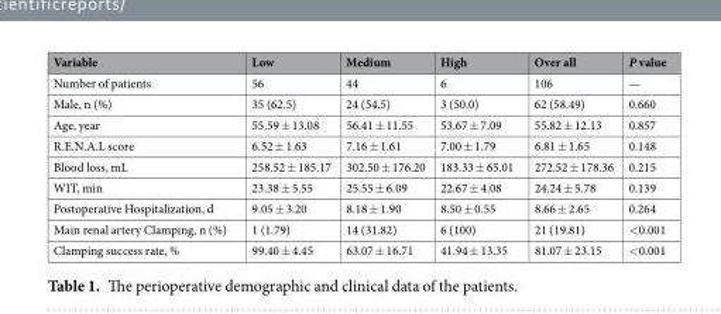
<table><thead><tr><td>Variable</td><td>Low</td><td>Medium</td><td>High</td><td>Over all</td><td>P value</td></tr></thead><tbody><tr><td>Number of patients</td><td>56</td><td>44</td><td>6</td><td>106</td><td>—</td></tr><tr><td>Male, n (%)</td><td>35 (62.5)</td><td>24 (54.5)</td><td>3 (50.0)</td><td>62 (58.49)</td><td>0.660</td></tr><tr><td>Age, year</td><td>55.59 ± 13.08</td><td>56.41 ± 11.55</td><td>53.67 ± 7.09</td><td>55.82 ± 12.13</td><td>0.857</td></tr><tr><td>R.E.N.A.L score</td><td>6.52 ± 1.63</td><td>7.16 ± 1.61</td><td>7.00 ± 1.79</td><td>6.81 ± 1.65</td><td>0.148</td></tr><tr><td>Blood loss, mL</td><td>258.52 ± 185.17</td><td>302.50 ± 176.20</td><td>183.33 ± 65.01</td><td>272.52 ± 178.36</td><td>0.215</td></tr><tr><td>WIT, min</td><td>23.38 ± 5.55</td><td>25.55 ± 6.09</td><td>22.67 ± 4.08</td><td>24.24 ± 5.78</td><td>0.139</td></tr><tr><td>Postoperative Hospitalization, d</td><td>9.05 ± 3.20</td><td>8.18 ± 1.90</td><td>8.50 ± 0.55</td><td>8.66 ± 2.65</td><td>0.264</td></tr><tr><td>Main renal artery Clamping, n (%)</td><td>1 (1.79)</td><td>14 (31.82)</td><td>6 (100)</td><td>21 (19.81)</td><td>&lt;0.001</td></tr><tr><td>Clamping success rate, %</td><td>99.40 ± 4.45</td><td>63.07 ± 16.71</td><td>41.94 ± 13.35</td><td>81.07 ± 23.15</td><td>&lt;0.001</td></tr></tbody></table>